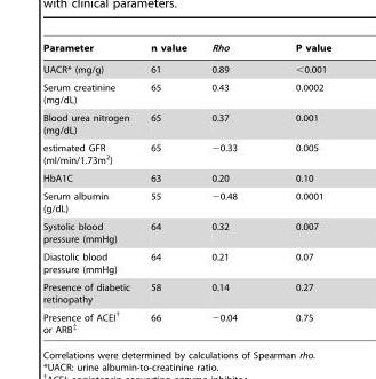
<table><thead><tr><td>Parameter</td><td>n value</td><td>Rho</td><td>P value</td></tr></thead><tbody><tr><td>UACR* (mg/g)</td><td>61</td><td>0.89</td><td>&lt;0.001</td></tr><tr><td>Serum creatinine (mg/dL)</td><td>65</td><td>0.43</td><td>0.0002</td></tr><tr><td>Blood urea nitrogen (mg/dL)</td><td>65</td><td>0.37</td><td>0.001</td></tr><tr><td>estimated GFR (ml/min/1.73m<sup>2</sup>)</td><td>65</td><td>−0.33</td><td>0.005</td></tr><tr><td>HbA1C</td><td>63</td><td>0.20</td><td>0.10</td></tr><tr><td>Serum albumin (g/dL)</td><td>55</td><td>−0.48</td><td>0.0001</td></tr><tr><td>Systolic blood pressure (mmHg)</td><td>64</td><td>0.32</td><td>0.007</td></tr><tr><td>Diastolic blood pressure (mmHg)</td><td>64</td><td>0.21</td><td>0.07</td></tr><tr><td>Presence of diabetic retinopathy</td><td>58</td><td>0.14</td><td>0.27</td></tr><tr><td>Presence of ACEI† or ARB‡</td><td>66</td><td>−0.04</td><td>0.75</td></tr></tbody></table>